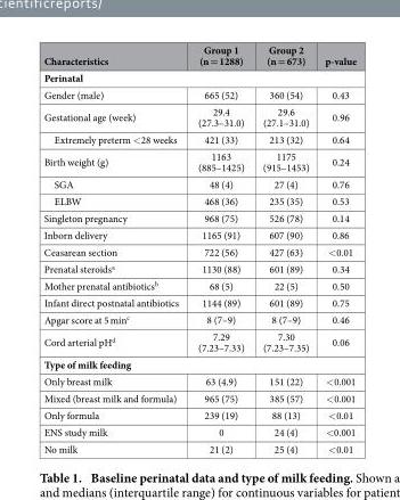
<table><thead><tr><td>Characteristics</td><td>Group 1 (n = 1288)</td><td>Group 2 (n = 673)</td><td>p-value</td></tr></thead><tbody><tr><td colspan="4">Perinatal</td></tr><tr><td>Gender (male)</td><td>665 (52)</td><td>360 (54)</td><td>0.43</td></tr><tr><td>Gestational age (week)</td><td>29.4 (27.3–31.0)</td><td>29.6 (27.1–31.0)</td><td>0.96</td></tr><tr><td>Extremely preterm &lt; 28 weeks</td><td>421 (33)</td><td>213 (32)</td><td>0.64</td></tr><tr><td>Birth weight (g)</td><td>1163 (885–1425)</td><td>1175 (915–1453)</td><td>0.24</td></tr><tr><td>SGA</td><td>48 (4)</td><td>27 (4)</td><td>0.76</td></tr><tr><td>ELBW</td><td>468 (36)</td><td>235 (35)</td><td>0.53</td></tr><tr><td>Singleton pregnancy</td><td>968 (75)</td><td>526 (78)</td><td>0.14</td></tr><tr><td>Inborn delivery</td><td>1165 (91)</td><td>607 (90)</td><td>0.86</td></tr><tr><td>Ceasarean section</td><td>722 (56)</td><td>427 (63)</td><td>&lt; 0.01</td></tr><tr><td>Prenatal steroids<sup>a</sup></td><td>1130 (88)</td><td>601 (89)</td><td>0.34</td></tr><tr><td>Mother prenatal antibiotics<sup>b</sup></td><td>68 (5)</td><td>22 (5)</td><td>0.50</td></tr><tr><td>Infant direct postnatal antibiotics</td><td>1144 (89)</td><td>601 (89)</td><td>0.75</td></tr><tr><td>Apgar score at 5 min<sup>c</sup></td><td>8 (7–9)</td><td>8 (7–9)</td><td>0.46</td></tr><tr><td>Cord arterial pH<sup>d</sup></td><td>7.29 (7.23–7.33)</td><td>7.30 (7.23–7.35)</td><td>0.06</td></tr><tr><td colspan="4">Type of milk feeding</td></tr><tr><td>Only breast milk</td><td>63 (4.9)</td><td>151 (22)</td><td>&lt; 0.001</td></tr><tr><td>Mixed (breast milk and formula)</td><td>965 (75)</td><td>385 (57)</td><td>&lt; 0.001</td></tr><tr><td>Only formula</td><td>239 (19)</td><td>88 (13)</td><td>&lt; 0.01</td></tr><tr><td>ENS study milk</td><td>0</td><td>24 (4)</td><td>&lt; 0.001</td></tr><tr><td>No milk</td><td>21 (2)</td><td>25 (4)</td><td>&lt; 0.01</td></tr></tbody></table>